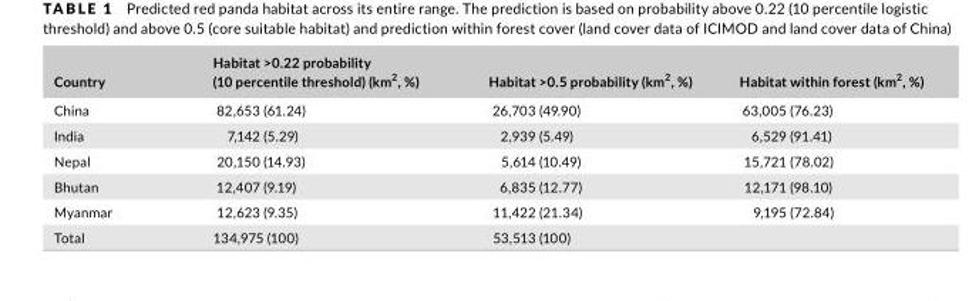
<table><thead><tr><td>Country</td><td>Habitat &gt;0.22 probability (10 percentile threshold) (km<sup>2</sup>, %)</td><td>Habitat &gt;0.5 probability (km<sup>2</sup>, %)</td><td>Habitat within forest (km<sup>2</sup>, %)</td></tr></thead><tbody><tr><td>China</td><td>82,653 (61.24)</td><td>26,703 (49.90)</td><td>63,005 (76.23)</td></tr><tr><td>India</td><td>7,142 (5.29)</td><td>2,939 (5.49)</td><td>6,529 (91.41)</td></tr><tr><td>Nepal</td><td>20,150 (14.93)</td><td>5,614 (10.49)</td><td>15,721 (78.02)</td></tr><tr><td>Bhutan</td><td>12,407 (9.19)</td><td>6,835 (12.77)</td><td>12,171 (98.10)</td></tr><tr><td>Myanmar</td><td>12,623 (9.35)</td><td>11,422 (21.34)</td><td>9,195 (72.84)</td></tr><tr><td>Total</td><td>134,975 (100)</td><td>53,513 (100)</td><td></td></tr></tbody></table>